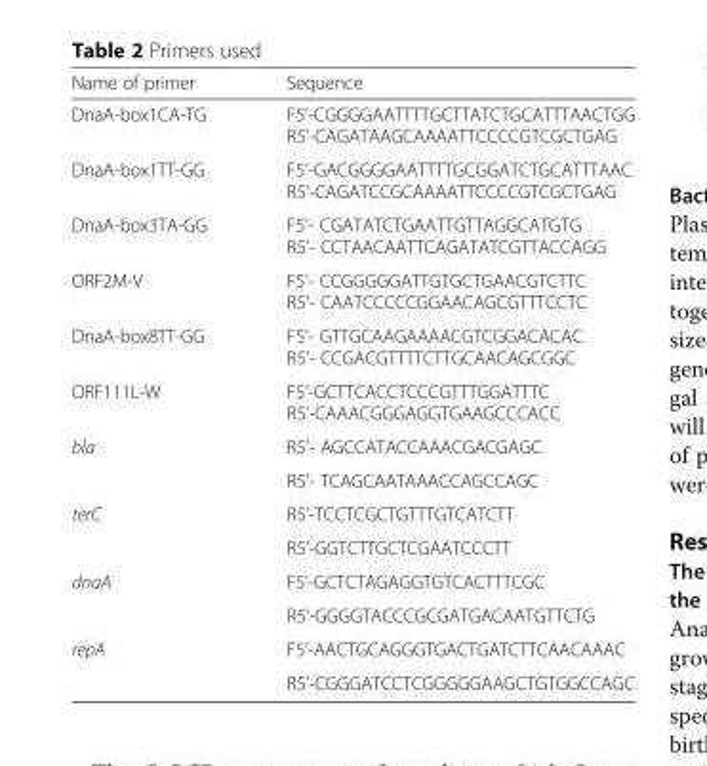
<table><thead><tr><td>Name of primer</td><td>Sequence</td></tr></thead><tbody><tr><td>DnaA-box1CA-TG</td><td>F5’-CGGGGAATTTTGCTTATCTGCATTTAACTGG R5’-CAGATAAGCAAAATTCCCCGTCGCTGAG</td></tr><tr><td>DnaA-box1TT-GG</td><td>F5’-GACGGGGAATTTTGCGGATCTGCATTTAAC R5’-CAGATCCGCAAAATTCCCCGTCGCTGAG</td></tr><tr><td>DnaA-box3TA-GG</td><td>F5’- CGATATCTGAATTGTTAGGCATGTG R5’- CCTAACAATTCAGATATCGTTACCAGG</td></tr><tr><td>ORF2M-V</td><td>F5’- CCGGGGGATTGTGCTGAACGTCTTC R5’- CAATCCCCCGGAACAGCGTTTCCTC</td></tr><tr><td>DnaA-box8TT-GG</td><td>F5’- GTTGCAAGAAAACGTCGGACACAC R5’- CCGACGTTTTCTTGCAACAGCGGC</td></tr><tr><td>ORF111L-W</td><td>F5’-GCTTCACCTCCCGTTTGGATTTC R5’-CAAACGGGAGGTGAAGCCCACC</td></tr><tr><td rowspan="2">bla</td><td>R5’- AGCCATACCAAACGACGAGC</td></tr><tr><td>R5’- TCAGCAATAAACCAGCCAGC</td></tr><tr><td rowspan="2">terC</td><td>R5’-TCCTCGCTGTTTGTCATCTT</td></tr><tr><td>R5’-GGTCTTGCTCGAATCCCTT</td></tr><tr><td rowspan="2">dnaA</td><td>F5’-GCTCTAGAGGTGTCACTTTCGC</td></tr><tr><td>R5’-GGGGTACCCGCGATGACAATGTTCTG</td></tr><tr><td rowspan="2">repA</td><td>F5’-AACTGCAGGGTGACTGATCTTCAACAAAC</td></tr><tr><td>R5’-CGGGATCCTCGGGGGAAGCTGTGGCCAGC</td></tr></tbody></table>